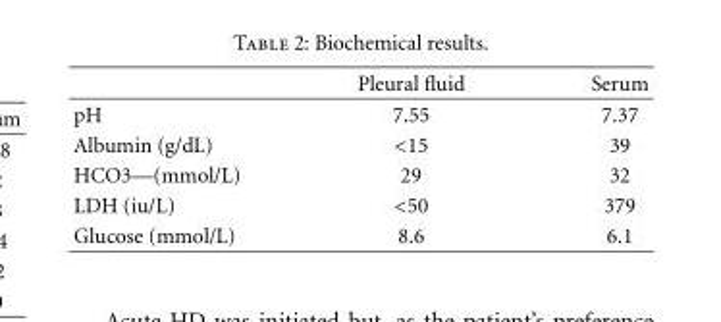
<table><thead><tr><td></td><td>Pleural fluid</td><td>Serum</td></tr></thead><tbody><tr><td>pH</td><td>7.55</td><td>7.37</td></tr><tr><td>Albumin (g/dL)</td><td>&lt;15</td><td>39</td></tr><tr><td>HCO3—(mmol/L)</td><td>29</td><td>32</td></tr><tr><td>LDH (iu/L)</td><td>&lt;50</td><td>379</td></tr><tr><td>Glucose (mmol/L)</td><td>8.6</td><td>6.1</td></tr></tbody></table>